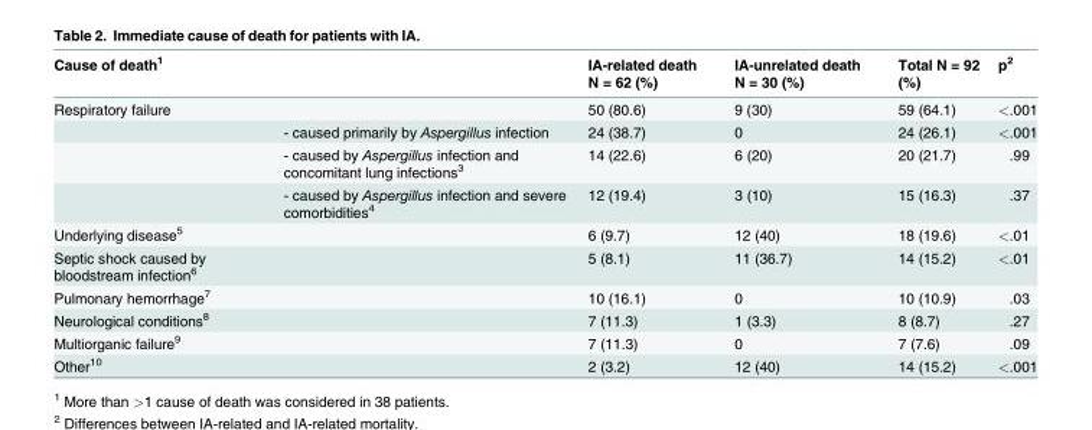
<table><thead><tr><td>Cause of death<sup>1</sup></td><td></td><td>IA-related death N = 62 (%)</td><td>IA-unrelated death N = 30 (%)</td><td>Total N = 92 (%)</td><td>p<sup>2</sup></td></tr></thead><tbody><tr><td rowspan="4">Respiratory failure</td><td></td><td>50 (80.6)</td><td>9 (30)</td><td>59 (64.1)</td><td>&lt;.001</td></tr><tr><td>- caused primarily by Aspergillus infection</td><td>24 (38.7)</td><td>0</td><td>24 (26.1)</td><td>&lt;.001</td></tr><tr><td>- caused by Aspergillus infection and concomitant lung infections<sup>3</sup></td><td>14 (22.6)</td><td>6 (20)</td><td>20 (21.7)</td><td>.99</td></tr><tr><td>- caused by Aspergillus infection and severe comorbidities<sup>4</sup></td><td>12 (19.4)</td><td>3 (10)</td><td>15 (16.3)</td><td>.37</td></tr><tr><td>Underlying disease<sup>5</sup></td><td></td><td>6 (9.7)</td><td>12 (40)</td><td>18 (19.6)</td><td>&lt;.01</td></tr><tr><td>Septic shock caused by bloodstream infection<sup>6</sup></td><td></td><td>5 (8.1)</td><td>11 (36.7)</td><td>14 (15.2)</td><td>&lt;.01</td></tr><tr><td>Pulmonary hemorrhage<sup>7</sup></td><td></td><td>10 (16.1)</td><td>0</td><td>10 (10.9)</td><td>.03</td></tr><tr><td>Neurological conditions<sup>8</sup></td><td></td><td>7 (11.3)</td><td>1 (3.3)</td><td>8 (8.7)</td><td>.27</td></tr><tr><td>Multiorganic failure<sup>9</sup></td><td></td><td>7 (11.3)</td><td>0</td><td>7 (7.6)</td><td>.09</td></tr><tr><td>Other<sup>10</sup></td><td></td><td>2 (3.2)</td><td>12 (40)</td><td>14 (15.2)</td><td>&lt;.001</td></tr></tbody></table>